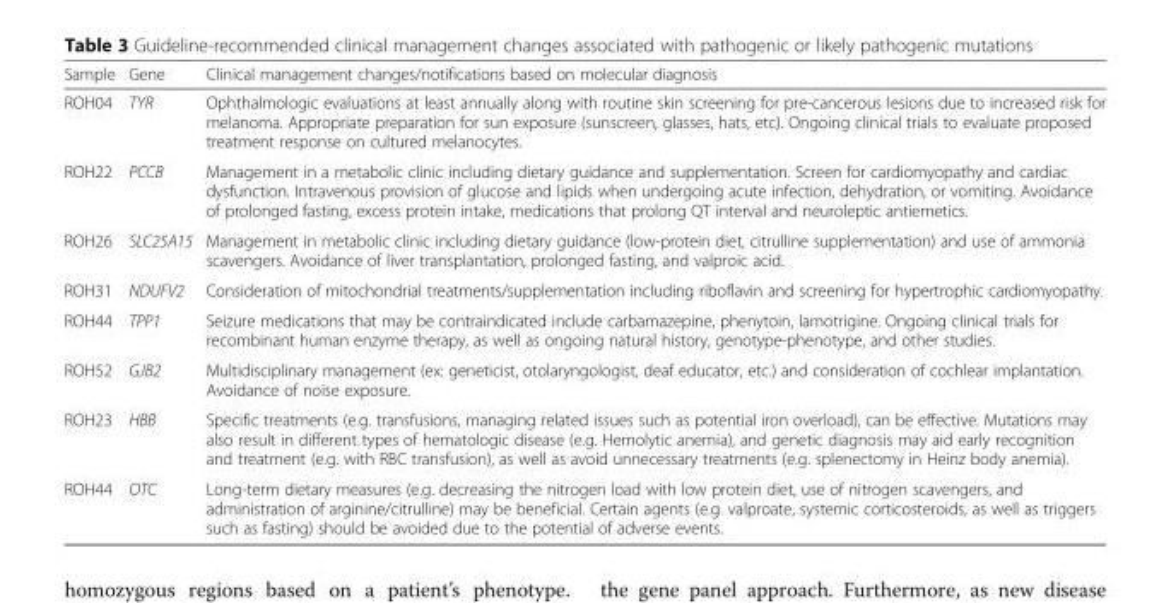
<table><thead><tr><td>Sample</td><td>Gene</td><td>Clinical management changes/notifications based on molecular diagnosis</td></tr></thead><tbody><tr><td>ROH04</td><td>TYR</td><td>Ophthalmologic evaluations at least annually along with routine skin screening for pre-cancerous lesions due to increased risk for melanoma. Appropriate preparation for sun exposure (sunscreen, glasses, hats, etc). Ongoing clinical trials to evaluate proposed treatment response on cultured melanocytes.</td></tr><tr><td>ROH22</td><td>PCCB</td><td>Management in a metabolic clinic including dietary guidance and supplementation. Screen for cardiomyopathy and cardiac dysfunction. Intravenous provision of glucose and lipids when undergoing acute infection, dehydration, or vomiting. Avoidance of prolonged fasting, excess protein intake, medications that prolong QT interval and neuroleptic antiemetics.</td></tr><tr><td>ROH26</td><td>SLC25A15</td><td>Management in metabolic clinic including dietary guidance (low-protein diet, citrulline supplementation) and use of ammonia scavengers. Avoidance of liver transplantation, prolonged fasting, and valproic acid.</td></tr><tr><td>ROH31</td><td>NDUFV2</td><td>Consideration of mitochondrial treatments/supplementation including riboflavin and screening for hypertrophic cardiomyopathy.</td></tr><tr><td>ROH44</td><td>TPP1</td><td>Seizure medications that may be contraindicated include carbamazepine, phenytoin, lamotrigine. Ongoing clinical trials for recombinant human enzyme therapy, as well as ongoing natural history, genotype-phenotype, and other studies.</td></tr><tr><td>ROH52</td><td>GJB2</td><td>Multidisciplinary management (ex: geneticist, otolaryngologist, deaf educator, etc.) and consideration of cochlear implantation. Avoidance of noise exposure.</td></tr><tr><td>ROH23</td><td>HBB</td><td>Specific treatments (e.g. transfusions, managing related issues such as potential iron overload), can be effective. Mutations may also result in different types of hematologic disease (e.g. Hemolytic anemia), and genetic diagnosis may aid early recognition and treatment (e.g. with RBC transfusion), as well as avoid unnecessary treatments (e.g. splenectomy in Heinz body anemia).</td></tr><tr><td>ROH44</td><td>OTC</td><td>Long-term dietary measures (e.g. decreasing the nitrogen load with low protein diet, use of nitrogen scavengers, and administration of arginine/citrulline) may be beneficial. Certain agents (e.g. valproate, systemic corticosteroids, as well as triggers such as fasting) should be avoided due to the potential of adverse events.</td></tr></tbody></table>